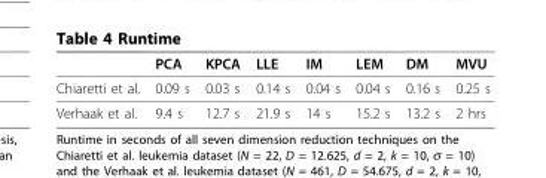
<table><thead><tr><td></td><td>PCA</td><td>KPCA</td><td>LLE</td><td>IM</td><td>LEM</td><td>DM</td><td>MVU</td></tr></thead><tbody><tr><td>Chiaretti et al.</td><td>0.09 s</td><td>0.03 s</td><td>0.14 s</td><td>0.04 s</td><td>0.04 s</td><td>0.16 s</td><td>0.25 s</td></tr><tr><td>Verhaak et al.</td><td>9.4 s</td><td>12.7 s</td><td>21.9 s</td><td>14 s</td><td>15.2 s</td><td>13.2 s</td><td>2 hrs</td></tr></tbody></table>